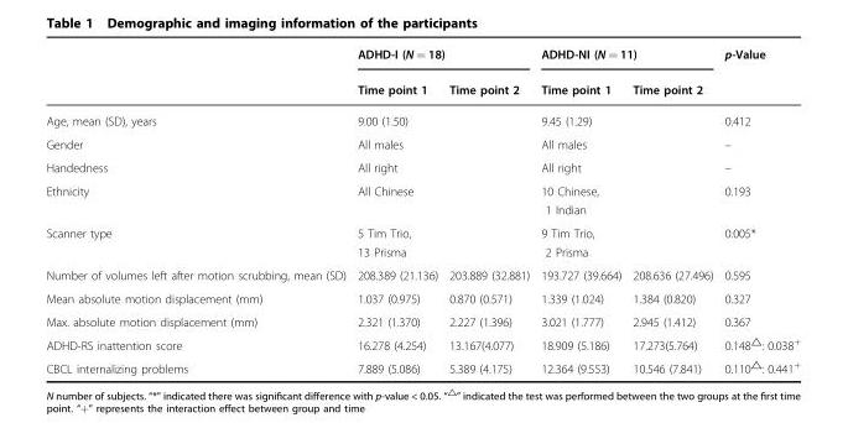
<table><thead><tr><td rowspan="2"></td><td colspan="2">ADHD-I (N = 18)</td><td colspan="2">ADHD-NI (N = 11)</td><td rowspan="2">p-Value</td></tr><tr><td>Time point 1</td><td>Time point 2</td><td>Time point 1</td><td>Time point 2</td></tr></thead><tbody><tr><td>Age, mean (SD), years</td><td colspan="2">9.00 (1.50)</td><td colspan="2">9.45 (1.29)</td><td>0.412</td></tr><tr><td>Gender</td><td colspan="2">All males</td><td colspan="2">All males</td><td>–</td></tr><tr><td>Handedness</td><td colspan="2">All right</td><td colspan="2">All right</td><td>–</td></tr><tr><td>Ethnicity</td><td colspan="2">All Chinese</td><td colspan="2">10 Chinese, 1 Indian</td><td>0.193</td></tr><tr><td>Scanner type</td><td colspan="2">5 Tim Trio, 13 Prisma</td><td colspan="2">9 Tim Trio, 2 Prisma</td><td>0.005*</td></tr><tr><td>Number of volumes left after motion scrubbing, mean (SD)</td><td>208.389 (21.136)</td><td>203.889 (32.881)</td><td>193.727 (39.664)</td><td>208.636 (27.496)</td><td>0.595</td></tr><tr><td>Mean absolute motion displacement (mm)</td><td>1.037 (0.975)</td><td>0.870 (0.571)</td><td>1.339 (1.024)</td><td>1.384 (0.820)</td><td>0.327</td></tr><tr><td>Max. absolute motion displacement (mm)</td><td>2.321 (1.370)</td><td>2.227 (1.396)</td><td>3.021 (1.777)</td><td>2.945 (1.412)</td><td>0.367</td></tr><tr><td>ADHD-RS inattention score</td><td>16.278 (4.254)</td><td>13.167(4.077)</td><td>18.909 (5.186)</td><td>17.273(5.764)</td><td>0.148<sup>△</sup>: 0.038<sup>+</sup></td></tr><tr><td>CBCL internalizing problems</td><td>7.889 (5.086)</td><td>5.389 (4.175)</td><td>12.364 (9.553)</td><td>10.546 (7.841)</td><td>0.110<sup>△</sup>: 0.441<sup>+</sup></td></tr></tbody></table>